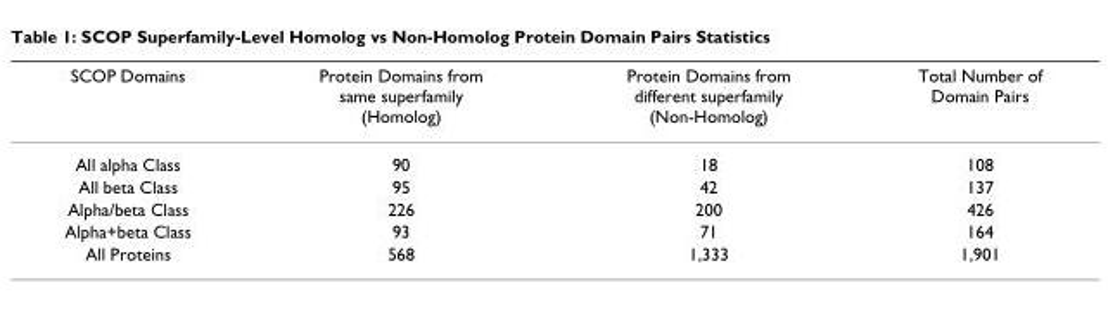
<table><thead><tr><td>SCOP Domains</td><td>Protein Domains from same superfamily (Homolog)</td><td>Protein Domains from different superfamily (Non-Homolog)</td><td>Total Number of Domain Pairs</td></tr></thead><tbody><tr><td>All alpha Class</td><td>90</td><td>18</td><td>108</td></tr><tr><td>All beta Class</td><td>95</td><td>42</td><td>137</td></tr><tr><td>Alpha/beta Class</td><td>226</td><td>200</td><td>426</td></tr><tr><td>Alpha+beta Class</td><td>93</td><td>71</td><td>164</td></tr><tr><td>All Proteins</td><td>568</td><td>1,333</td><td>1,901</td></tr></tbody></table>